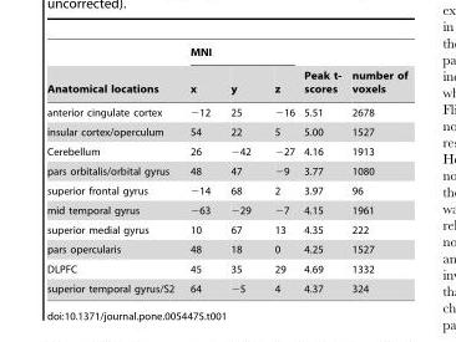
<table><thead><tr><td rowspan="2">Anatomical locations</td><td colspan="3">MNI</td><td rowspan="2">Peak t- scores</td><td rowspan="2">number of voxels</td></tr><tr><td>x</td><td>y</td><td>z</td></tr></thead><tbody><tr><td>anterior cingulate cortex</td><td>−12</td><td>25</td><td>−16</td><td>5.51</td><td>2678</td></tr><tr><td>insular cortex/operculum</td><td>54</td><td>22</td><td>5</td><td>5.00</td><td>1527</td></tr><tr><td>Cerebellum</td><td>26</td><td>−42</td><td>−27</td><td>4.16</td><td>1913</td></tr><tr><td>pars orbitalis/orbital gyrus</td><td>48</td><td>47</td><td>−9</td><td>3.77</td><td>1080</td></tr><tr><td>superior frontal gyrus</td><td>−14</td><td>68</td><td>2</td><td>3.97</td><td>96</td></tr><tr><td>mid temporal gyrus</td><td>−63</td><td>−29</td><td>−7</td><td>4.15</td><td>1961</td></tr><tr><td>superior medial gyrus</td><td>10</td><td>67</td><td>13</td><td>4.35</td><td>222</td></tr><tr><td>pars opercularis</td><td>48</td><td>18</td><td>0</td><td>4.25</td><td>1527</td></tr><tr><td>DLPFC</td><td>45</td><td>35</td><td>29</td><td>4.69</td><td>1332</td></tr><tr><td>superior temporal gyrus/S2</td><td>64</td><td>−5</td><td>4</td><td>4.37</td><td>324</td></tr></tbody></table>